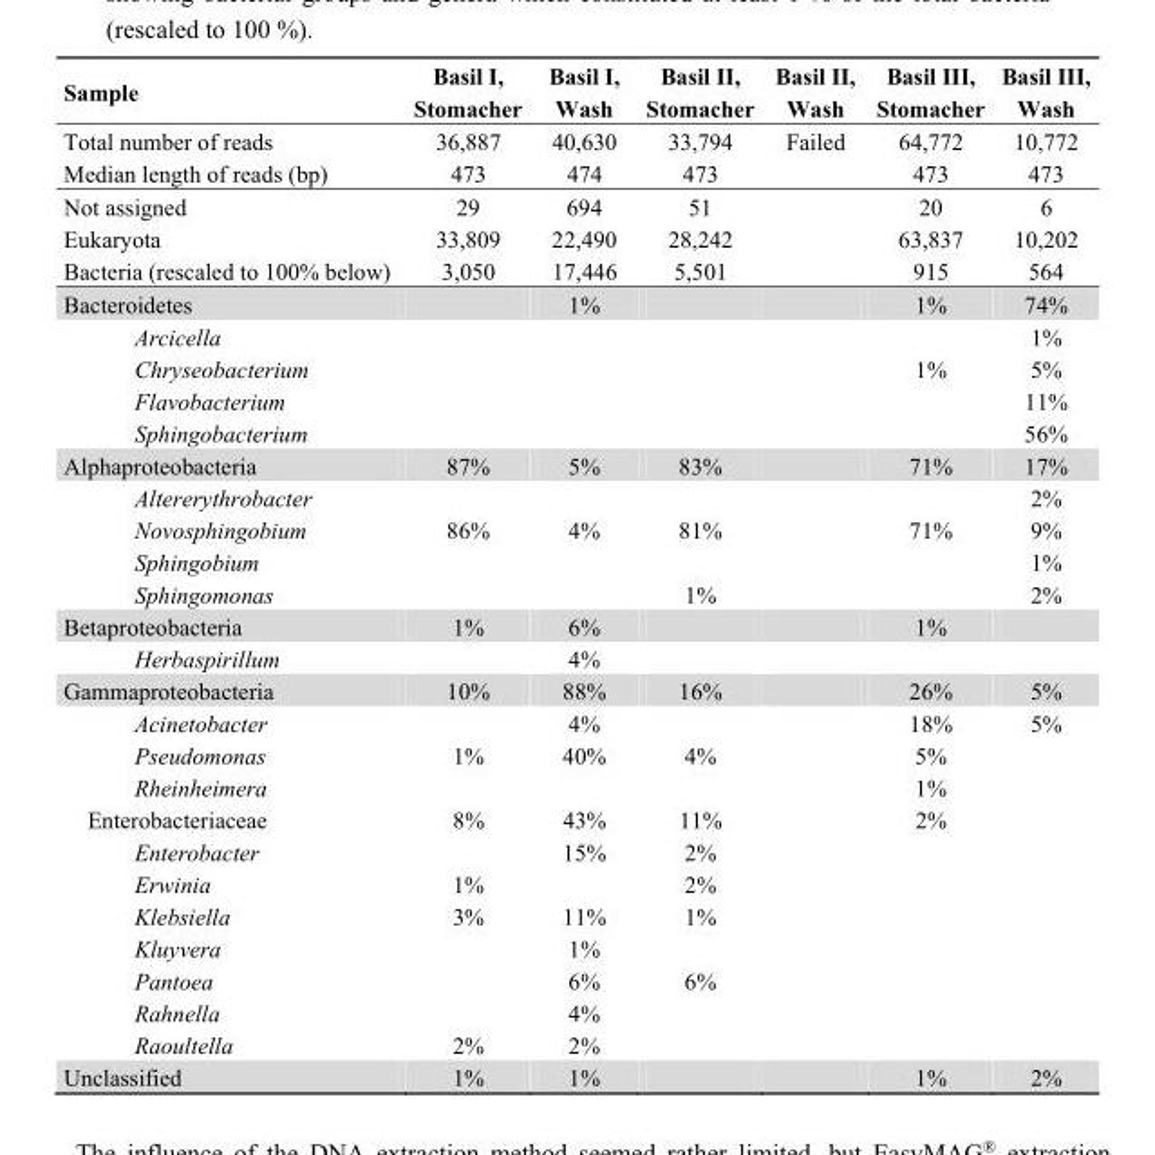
<table><thead><tr><td>Sample</td><td>Basil I, Stomacher</td><td>Basil I, Wash</td><td>Basil II, Stomacher</td><td>Basil II, Wash</td><td>Basil III, Stomacher</td><td>Basil III, Wash</td></tr></thead><tbody><tr><td>Total number of reads</td><td>36,887</td><td>40,630</td><td>33,794</td><td>Failed</td><td>64,772</td><td>10,772</td></tr><tr><td>Median length of reads (bp)</td><td>473</td><td>474</td><td>473</td><td></td><td>473</td><td>473</td></tr><tr><td>Not assigned</td><td>29</td><td>694</td><td>51</td><td></td><td>20</td><td>6</td></tr><tr><td>Eukaryota</td><td>33,809</td><td>22,490</td><td>28,242</td><td></td><td>63,837</td><td>10,202</td></tr><tr><td>Bacteria (rescaled to 100% below)</td><td>3,050</td><td>17,446</td><td>5,501</td><td></td><td>915</td><td>564</td></tr><tr><td>Bacteroidetes</td><td></td><td>1%</td><td></td><td></td><td>1%</td><td>74%</td></tr><tr><td>Arcicella</td><td></td><td></td><td></td><td></td><td></td><td>1%</td></tr><tr><td>Chryseobacterium</td><td></td><td></td><td></td><td></td><td>1%</td><td>5%</td></tr><tr><td>Flavobacterium</td><td></td><td></td><td></td><td></td><td></td><td>11%</td></tr><tr><td>Sphingobacterium</td><td></td><td></td><td></td><td></td><td></td><td>56%</td></tr><tr><td>Alphaproteobacteria</td><td>87%</td><td>5%</td><td>83%</td><td></td><td>71%</td><td>17%</td></tr><tr><td>Altererythrobacter</td><td></td><td></td><td></td><td></td><td></td><td>2%</td></tr><tr><td>Novosphingobium</td><td>86%</td><td>4%</td><td>81%</td><td></td><td>71%</td><td>9%</td></tr><tr><td>Sphingobium</td><td></td><td></td><td></td><td></td><td></td><td>1%</td></tr><tr><td>Sphingomonas</td><td></td><td></td><td>1%</td><td></td><td></td><td>2%</td></tr><tr><td>Betaproteobacteria</td><td>1%</td><td>6%</td><td></td><td></td><td>1%</td><td></td></tr><tr><td>Herbaspirillum</td><td></td><td>4%</td><td></td><td></td><td></td><td></td></tr><tr><td>Gammaproteobacteria</td><td>10%</td><td>88%</td><td>16%</td><td></td><td>26%</td><td>5%</td></tr><tr><td>Acinetobacter</td><td></td><td>4%</td><td></td><td></td><td>18%</td><td>5%</td></tr><tr><td>Pseudomonas</td><td>1%</td><td>40%</td><td>4%</td><td></td><td>5%</td><td></td></tr><tr><td>Rheinheimera</td><td></td><td></td><td></td><td></td><td>1%</td><td></td></tr><tr><td>Enterobacteriaceae</td><td>8%</td><td>43%</td><td>11%</td><td></td><td>2%</td><td></td></tr><tr><td>Enterobacter</td><td></td><td>15%</td><td>2%</td><td></td><td></td><td></td></tr><tr><td>Erwinia</td><td>1%</td><td></td><td>2%</td><td></td><td></td><td></td></tr><tr><td>Klebsiella</td><td>3%</td><td>11%</td><td>1%</td><td></td><td></td><td></td></tr><tr><td>Kluyvera</td><td></td><td>1%</td><td></td><td></td><td></td><td></td></tr><tr><td>Pantoea</td><td></td><td>6%</td><td>6%</td><td></td><td></td><td></td></tr><tr><td>Rahnella</td><td></td><td>4%</td><td></td><td></td><td></td><td></td></tr><tr><td>Raoultella</td><td>2%</td><td>2%</td><td></td><td></td><td></td><td></td></tr><tr><td>Unclassified</td><td>1%</td><td>1%</td><td></td><td></td><td>1%</td><td>2%</td></tr></tbody></table>